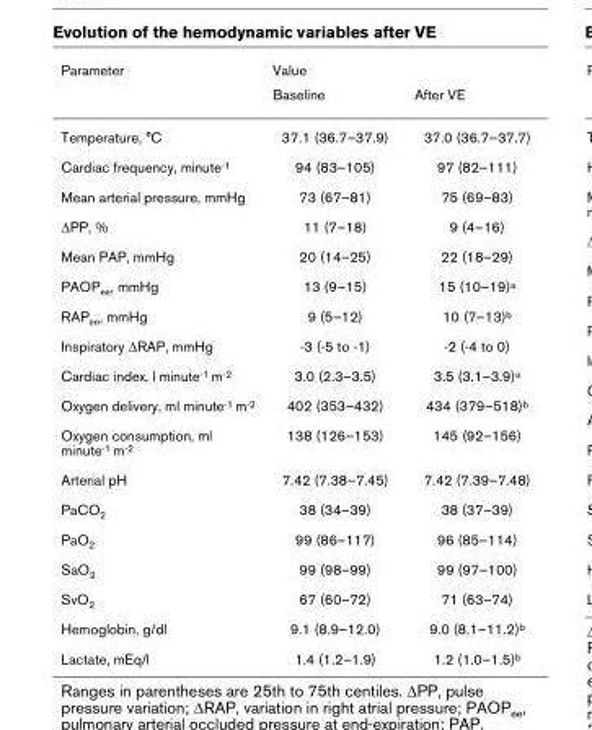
<table><thead><tr><td rowspan="2">Parameter</td><td colspan="2">Value</td></tr><tr><td>Baseline</td><td>After VE</td></tr></thead><tbody><tr><td>Temperature, °C</td><td>37.1 (36.7–37.9)</td><td>37.0 (36.7–37.7)</td></tr><tr><td>Cardiac frequency, minute-1</td><td>94 (83–105)</td><td>97 (82–111)</td></tr><tr><td>Mean arterial pressure, mmHg</td><td>73 (67–81)</td><td>75 (69–83)</td></tr><tr><td>∆PP, %</td><td>11 (7–18)</td><td>9 (4–16)</td></tr><tr><td>Mean PAP, mmHg</td><td>20 (14–25)</td><td>22 (18–29)</td></tr><tr><td>PAOPee, mmHg</td><td>13 (9–15)</td><td>15 (10–19)a</td></tr><tr><td>RAPee, mmHg</td><td>9 (5–12)</td><td>10 (7–13)b</td></tr><tr><td>Inspiratory ∆RAP, mmHg</td><td>-3 (-5 to -1)</td><td>-2 (-4 to 0)</td></tr><tr><td>Cardiac index, l minute-1 m-2</td><td>3.0 (2.3–3.5)</td><td>3.5 (3.1–3.9)a</td></tr><tr><td>Oxygen delivery, ml minute-1 m-2</td><td>402 (353–432)</td><td>434 (379–518)b</td></tr><tr><td>Oxygen consumption, ml minute-1 m-2</td><td>138 (126–153)</td><td>145 (92–156)</td></tr><tr><td>Arterial pH</td><td>7.42 (7.38–7.45)</td><td>7.42 (7.39–7.48)</td></tr><tr><td>PaCO2</td><td>38 (34–39)</td><td>38 (37–39)</td></tr><tr><td>PaO2</td><td>99 (86–117)</td><td>96 (85–114)</td></tr><tr><td>SaO2</td><td>99 (98–99)</td><td>99 (97–100)</td></tr><tr><td>SvO2</td><td>67 (60–72)</td><td>71 (63–74)</td></tr><tr><td>Hemoglobin, g/dl</td><td>9.1 (8.9–12.0)</td><td>9.0 (8.1–11.2)b</td></tr><tr><td>Lactate, mEq/l</td><td>1.4 (1.2–1.9)</td><td>1.2 (1.0–1.5)b</td></tr></tbody></table>